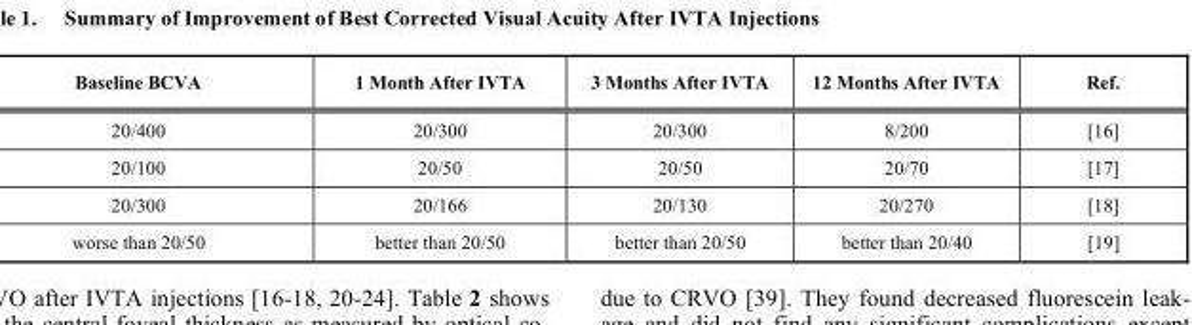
<table><thead><tr><td>Baseline BCVA</td><td>1 Month After IVTA</td><td>3 Months After IVTA</td><td>12 Months After IVTA</td><td>Ref.</td></tr></thead><tbody><tr><td>20/400</td><td>20/300</td><td>20/300</td><td>8/200</td><td>[16]</td></tr><tr><td>20/100</td><td>20/50</td><td>20/50</td><td>20/70</td><td>[17]</td></tr><tr><td>20/300</td><td>20/166</td><td>20/130</td><td>20/270</td><td>[18]</td></tr><tr><td>worse than 20/50</td><td>better than 20/50</td><td>better than 20/50</td><td>better than 20/40</td><td>[19]</td></tr></tbody></table>